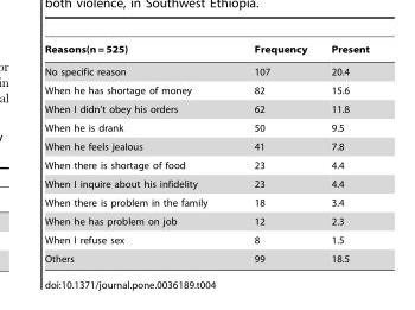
<table><thead><tr><td>Reasons(n = 525)</td><td>Frequency</td><td>Present</td></tr></thead><tbody><tr><td>No specific reason</td><td>107</td><td>20.4</td></tr><tr><td>When he has shortage of money</td><td>82</td><td>15.6</td></tr><tr><td>When I didn’t obey his orders</td><td>62</td><td>11.8</td></tr><tr><td>When he is drank</td><td>50</td><td>9.5</td></tr><tr><td>When he feels jealous</td><td>41</td><td>7.8</td></tr><tr><td>When there is shortage of food</td><td>23</td><td>4.4</td></tr><tr><td>When I inquire about his infidelity</td><td>23</td><td>4.4</td></tr><tr><td>When there is problem in the family</td><td>18</td><td>3.4</td></tr><tr><td>When he has problem on job</td><td>12</td><td>2.3</td></tr><tr><td>When I refuse sex</td><td>8</td><td>1.5</td></tr><tr><td>Others</td><td>99</td><td>18.5</td></tr></tbody></table>